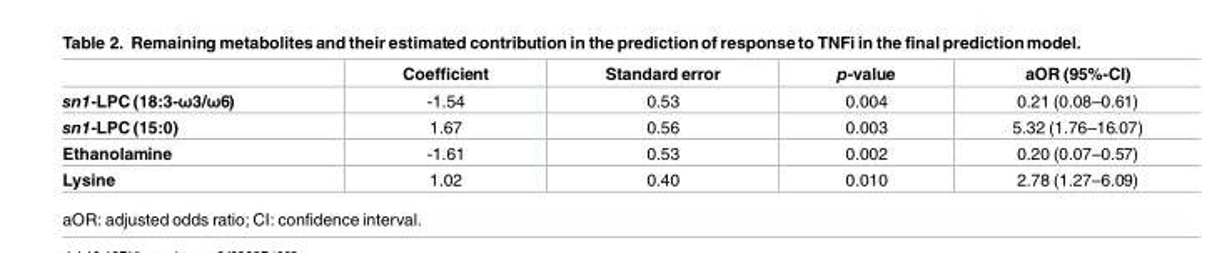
<table><thead><tr><td></td><td>Coefficient</td><td>Standard error</td><td>p-value</td><td>aOR (95%-CI)</td></tr></thead><tbody><tr><td>sn1-LPC (18:3-ω3/ω6)</td><td>-1.54</td><td>0.53</td><td>0.004</td><td>0.21 (0.08–0.61)</td></tr><tr><td>sn1-LPC (15:0)</td><td>1.67</td><td>0.56</td><td>0.003</td><td>5.32 (1.76–16.07)</td></tr><tr><td>Ethanolamine</td><td>-1.61</td><td>0.53</td><td>0.002</td><td>0.20 (0.07–0.57)</td></tr><tr><td>Lysine</td><td>1.02</td><td>0.40</td><td>0.010</td><td>2.78 (1.27–6.09)</td></tr></tbody></table>